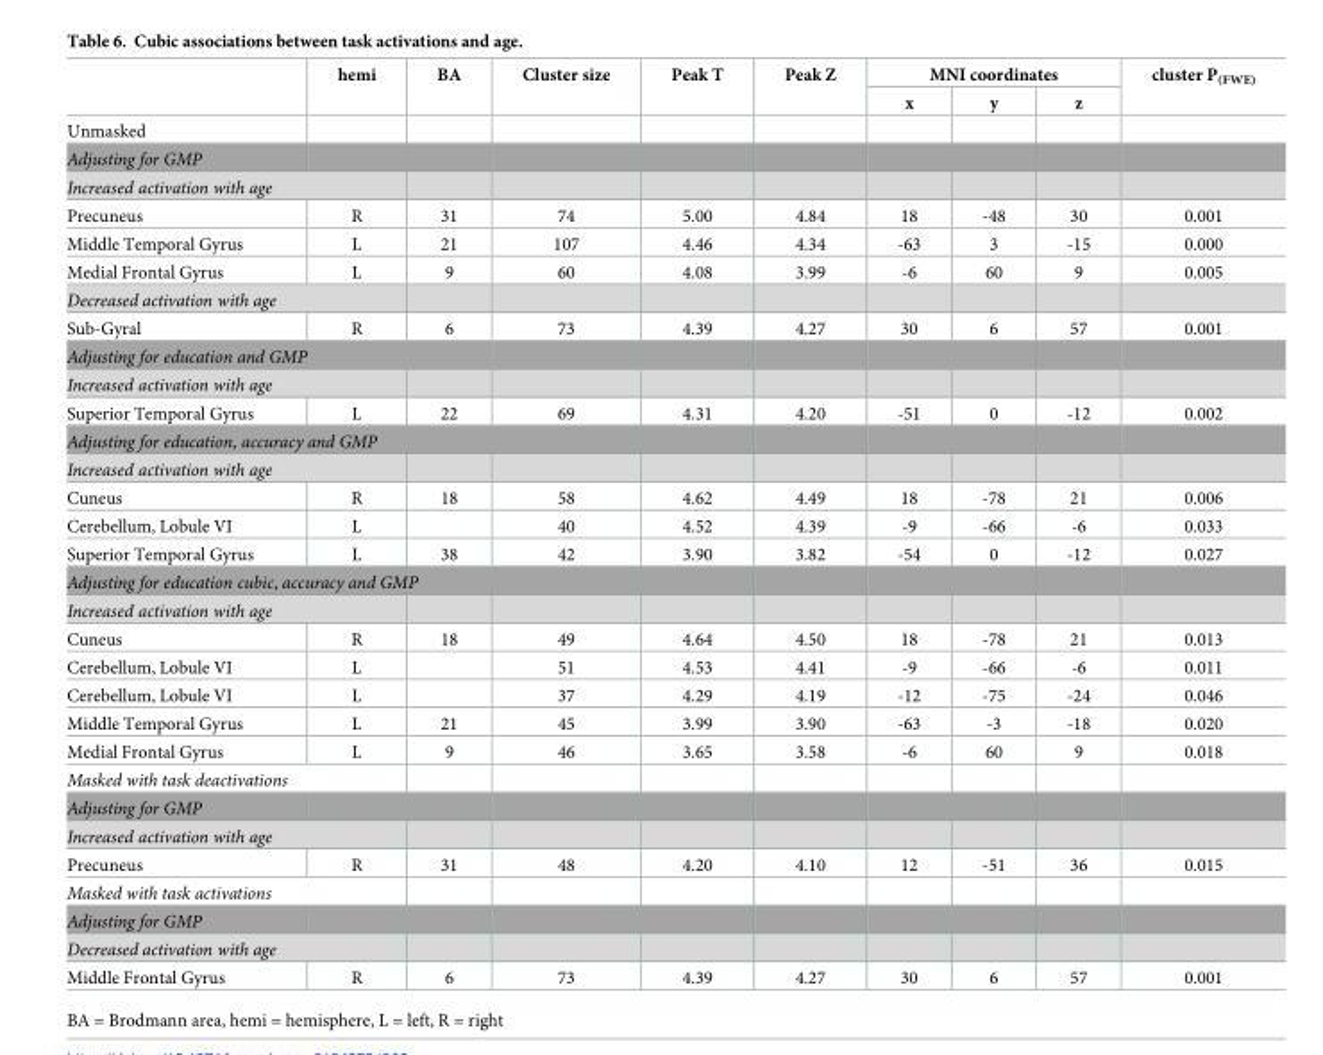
<table><thead><tr><td rowspan="2"></td><td rowspan="2">hemi</td><td rowspan="2">BA</td><td rowspan="2">Cluster size</td><td rowspan="2">Peak T</td><td rowspan="2">Peak Z</td><td colspan="3">MNI coordinates</td><td rowspan="2">cluster P<sub>(FWE)</sub></td></tr><tr><td>x</td><td>y</td><td>z</td></tr></thead><tbody><tr><td colspan="10">Unmasked</td></tr><tr><td colspan="10">Adjusting for GMP</td></tr><tr><td colspan="10">Increased activation with age</td></tr><tr><td>Precuneus</td><td>R</td><td>31</td><td>74</td><td>5.00</td><td>4.84</td><td>18</td><td>-48</td><td>30</td><td>0.001</td></tr><tr><td>Middle Temporal Gyrus</td><td>L</td><td>21</td><td>107</td><td>4.46</td><td>4.34</td><td>-63</td><td>3</td><td>-15</td><td>0.000</td></tr><tr><td>Medial Frontal Gyrus</td><td>L</td><td>9</td><td>60</td><td>4.08</td><td>3.99</td><td>-6</td><td>60</td><td>9</td><td>0.005</td></tr><tr><td colspan="10">Decreased activation with age</td></tr><tr><td>Sub-Gyral</td><td>R</td><td>6</td><td>73</td><td>4.39</td><td>4.27</td><td>30</td><td>6</td><td>57</td><td>0.001</td></tr><tr><td colspan="10">Adjusting for education and GMP</td></tr><tr><td colspan="10">Increased activation with age</td></tr><tr><td>Superior Temporal Gyrus</td><td>L</td><td>22</td><td>69</td><td>4.31</td><td>4.20</td><td>-51</td><td>0</td><td>-12</td><td>0.002</td></tr><tr><td colspan="10">Adjusting for education, accuracy and GMP</td></tr><tr><td colspan="10">Increased activation with age</td></tr><tr><td>Cuneus</td><td>R</td><td>18</td><td>58</td><td>4.62</td><td>4.49</td><td>18</td><td>-78</td><td>21</td><td>0.006</td></tr><tr><td>Cerebellum, Lobule VI</td><td>L</td><td></td><td>40</td><td>4.52</td><td>4.39</td><td>-9</td><td>-66</td><td>-6</td><td>0.033</td></tr><tr><td>Superior Temporal Gyrus</td><td>L</td><td>38</td><td>42</td><td>3.90</td><td>3.82</td><td>-54</td><td>0</td><td>-12</td><td>0.027</td></tr><tr><td colspan="10">Adjusting for education cubic, accuracy and GMP</td></tr><tr><td colspan="10">Increased activation with age</td></tr><tr><td>Cuneus</td><td>R</td><td>18</td><td>49</td><td>4.64</td><td>4.50</td><td>18</td><td>-78</td><td>21</td><td>0.013</td></tr><tr><td>Cerebellum, Lobule VI</td><td>L</td><td></td><td>51</td><td>4.53</td><td>4.41</td><td>-9</td><td>-66</td><td>-6</td><td>0.011</td></tr><tr><td>Cerebellum, Lobule VI</td><td>L</td><td></td><td>37</td><td>4.29</td><td>4.19</td><td>-12</td><td>-75</td><td>-24</td><td>0.046</td></tr><tr><td>Middle Temporal Gyrus</td><td>L</td><td>21</td><td>45</td><td>3.99</td><td>3.90</td><td>-63</td><td>-3</td><td>-18</td><td>0.020</td></tr><tr><td>Medial Frontal Gyrus</td><td>L</td><td>9</td><td>46</td><td>3.65</td><td>3.58</td><td>-6</td><td>60</td><td>9</td><td>0.018</td></tr><tr><td colspan="10">Masked with task deactivations</td></tr><tr><td colspan="10">Adjusting for GMP</td></tr><tr><td colspan="10">Increased activation with age</td></tr><tr><td>Precuneus</td><td>R</td><td>31</td><td>48</td><td>4.20</td><td>4.10</td><td>12</td><td>-51</td><td>36</td><td>0.015</td></tr><tr><td colspan="10">Masked with task activations</td></tr><tr><td colspan="10">Adjusting for GMP</td></tr><tr><td colspan="10">Decreased activation with age</td></tr><tr><td>Middle Frontal Gyrus</td><td>R</td><td>6</td><td>73</td><td>4.39</td><td>4.27</td><td>30</td><td>6</td><td>57</td><td>0.001</td></tr></tbody></table>